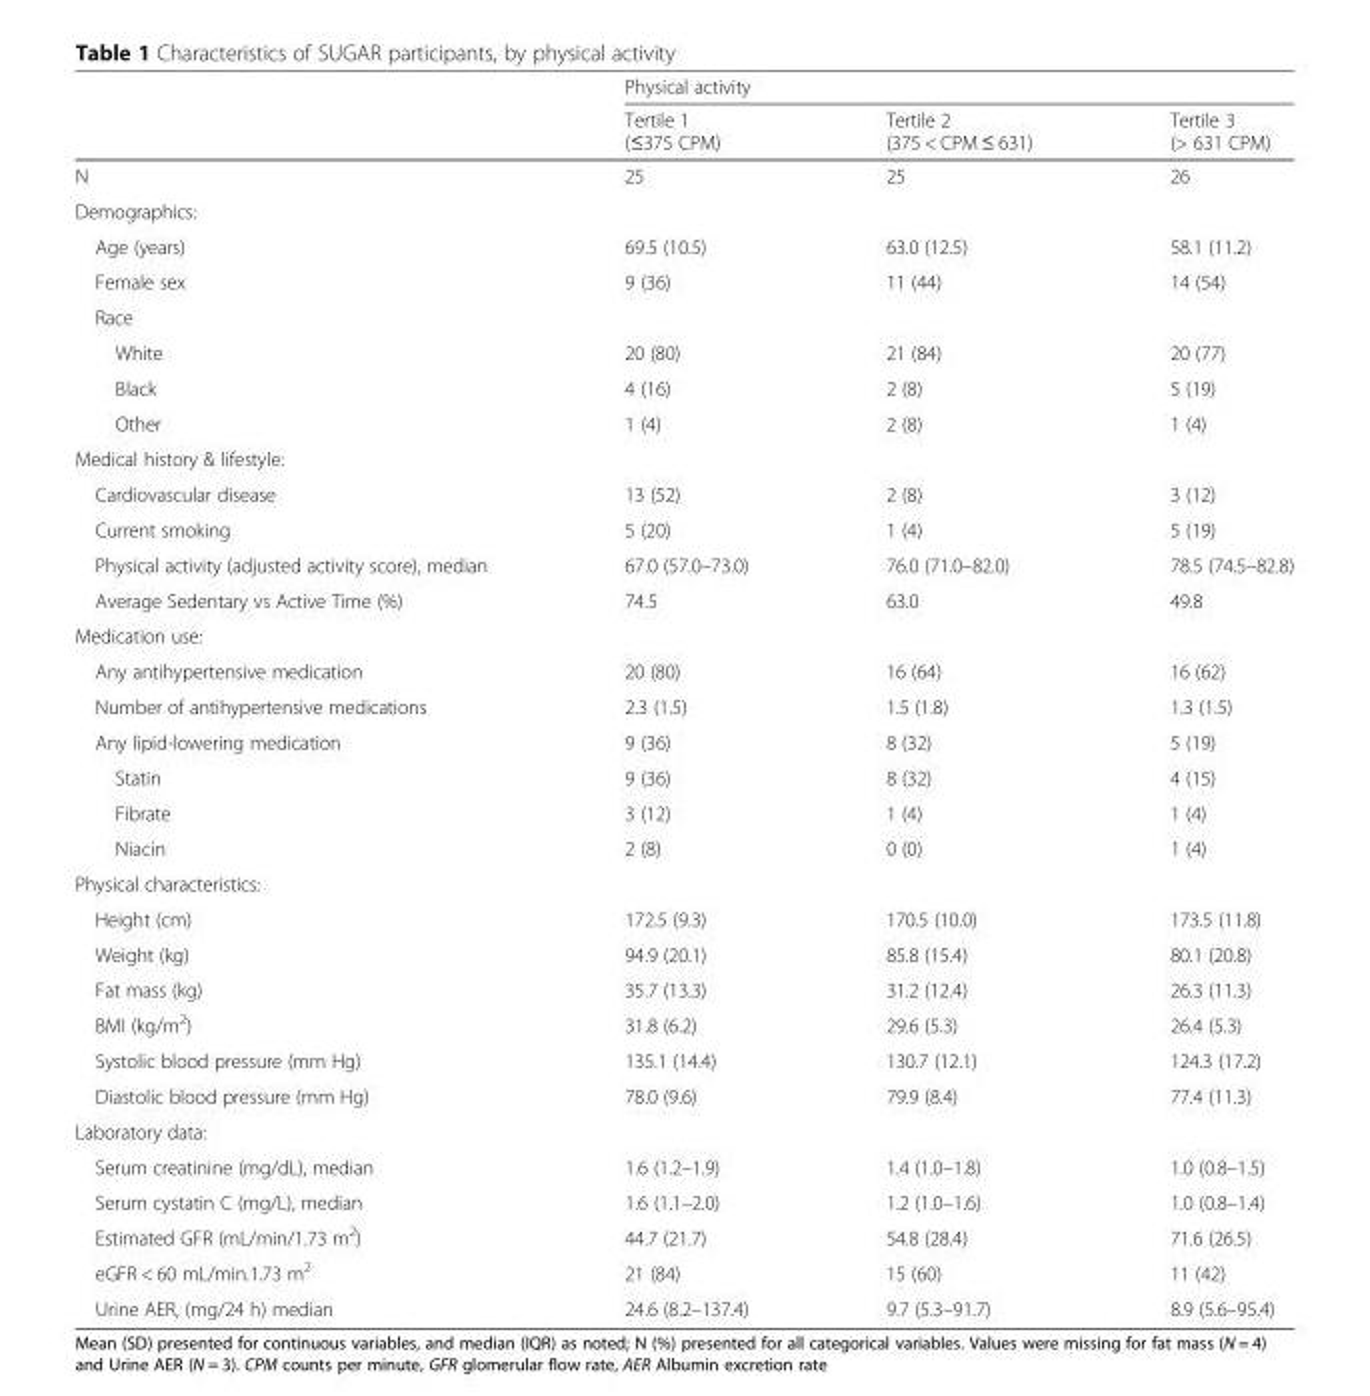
<table><thead><tr><td rowspan="2"></td><td colspan="3">Physical activity</td></tr><tr><td>Tertile 1 (≤375 CPM)</td><td>Tertile 2 (375 &lt; CPM ≤ 631)</td><td>Tertile 3 (&gt; 631 CPM)</td></tr></thead><tbody><tr><td>N</td><td>25</td><td>25</td><td>26</td></tr><tr><td colspan="4">Demographics:</td></tr><tr><td>Age (years)</td><td>69.5 (10.5)</td><td>63.0 (12.5)</td><td>58.1 (11.2)</td></tr><tr><td>Female sex</td><td>9 (36)</td><td>11 (44)</td><td>14 (54)</td></tr><tr><td colspan="4">Race</td></tr><tr><td>White</td><td>20 (80)</td><td>21 (84)</td><td>20 (77)</td></tr><tr><td>Black</td><td>4 (16)</td><td>2 (8)</td><td>5 (19)</td></tr><tr><td>Other</td><td>1 (4)</td><td>2 (8)</td><td>1 (4)</td></tr><tr><td colspan="4">Medical history &amp; lifestyle:</td></tr><tr><td>Cardiovascular disease</td><td>13 (52)</td><td>2 (8)</td><td>3 (12)</td></tr><tr><td>Current smoking</td><td>5 (20)</td><td>1 (4)</td><td>5 (19)</td></tr><tr><td>Physical activity (adjusted activity score), median</td><td>67.0 (57.0–73.0)</td><td>76.0 (71.0–82.0)</td><td>78.5 (74.5–82.8)</td></tr><tr><td>Average Sedentary vs Active Time (%)</td><td>74.5</td><td>63.0</td><td>49.8</td></tr><tr><td colspan="4">Medication use:</td></tr><tr><td>Any antihypertensive medication</td><td>20 (80)</td><td>16 (64)</td><td>16 (62)</td></tr><tr><td>Number of antihypertensive medications</td><td>2.3 (1.5)</td><td>1.5 (1.8)</td><td>1.3 (1.5)</td></tr><tr><td>Any lipid-lowering medication</td><td>9 (36)</td><td>8 (32)</td><td>5 (19)</td></tr><tr><td>Statin</td><td>9 (36)</td><td>8 (32)</td><td>4 (15)</td></tr><tr><td>Fibrate</td><td>3 (12)</td><td>1 (4)</td><td>1 (4)</td></tr><tr><td>Niacin</td><td>2 (8)</td><td>0 (0)</td><td>1 (4)</td></tr><tr><td colspan="4">Physical characteristics:</td></tr><tr><td>Height (cm)</td><td>172.5 (9.3)</td><td>170.5 (10.0)</td><td>173.5 (11.8)</td></tr><tr><td>Weight (kg)</td><td>94.9 (20.1)</td><td>85.8 (15.4)</td><td>80.1 (20.8)</td></tr><tr><td>Fat mass (kg)</td><td>35.7 (13.3)</td><td>31.2 (12.4)</td><td>26.3 (11.3)</td></tr><tr><td>BMI (kg/m<sup>2</sup>)</td><td>31.8 (6.2)</td><td>29.6 (5.3)</td><td>26.4 (5.3)</td></tr><tr><td>Systolic blood pressure (mm Hg)</td><td>135.1 (14.4)</td><td>130.7 (12.1)</td><td>124.3 (17.2)</td></tr><tr><td>Diastolic blood pressure (mm Hg)</td><td>78.0 (9.6)</td><td>79.9 (8.4)</td><td>77.4 (11.3)</td></tr><tr><td colspan="4">Laboratory data:</td></tr><tr><td>Serum creatinine (mg/dL), median</td><td>1.6 (1.2–1.9)</td><td>1.4 (1.0–1.8)</td><td>1.0 (0.8–1.5)</td></tr><tr><td>Serum cystatin C (mg/L), median</td><td>1.6 (1.1–2.0)</td><td>1.2 (1.0–1.6)</td><td>1.0 (0.8–1.4)</td></tr><tr><td>Estimated GFR (mL/min/1.73 m<sup>2</sup>)</td><td>44.7 (21.7)</td><td>54.8 (28.4)</td><td>71.6 (26.5)</td></tr><tr><td>eGFR &lt; 60 mL/min.1.73 m<sup>2</sup></td><td>21 (84)</td><td>15 (60)</td><td>11 (42)</td></tr><tr><td>Urine AER, (mg/24 h) median</td><td>24.6 (8.2–137.4)</td><td>9.7 (5.3–91.7)</td><td>8.9 (5.6–95.4)</td></tr></tbody></table>